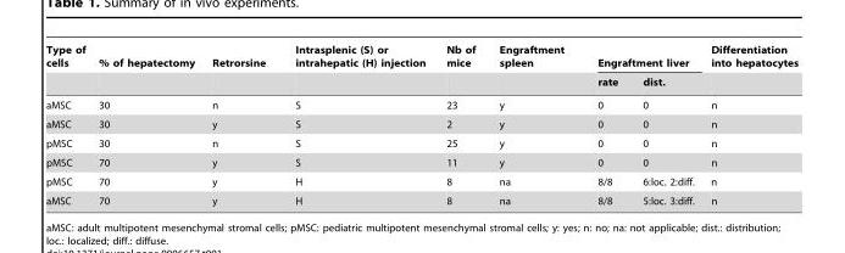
<table><thead><tr><td rowspan="2">Type of cells</td><td rowspan="2">% of hepatectomy</td><td rowspan="2">Retrorsine</td><td rowspan="2">Intrasplenic (S) or intrahepatic (H) injection</td><td rowspan="2">Nb of mice</td><td rowspan="2">Engraftment spleen</td><td colspan="2">Engraftment liver</td><td rowspan="2">Differentiation into hepatocytes</td></tr><tr><td>rate</td><td>dist.</td></tr></thead><tbody><tr><td>aMSC</td><td>30</td><td>n</td><td>S</td><td>23</td><td>y</td><td>0</td><td>0</td><td>n</td></tr><tr><td>aMSC</td><td>30</td><td>y</td><td>S</td><td>2</td><td>y</td><td>0</td><td>0</td><td>n</td></tr><tr><td>pMSC</td><td>30</td><td>n</td><td>S</td><td>25</td><td>y</td><td>0</td><td>0</td><td>n</td></tr><tr><td>pMSC</td><td>70</td><td>y</td><td>S</td><td>11</td><td>y</td><td>0</td><td>0</td><td>n</td></tr><tr><td>pMSC</td><td>70</td><td>y</td><td>H</td><td>8</td><td>na</td><td>8/8</td><td>6:loc. 2:diff.</td><td>n</td></tr><tr><td>aMSC</td><td>70</td><td>y</td><td>H</td><td>8</td><td>na</td><td>8/8</td><td>5:loc. 3:diff.</td><td>n</td></tr></tbody></table>